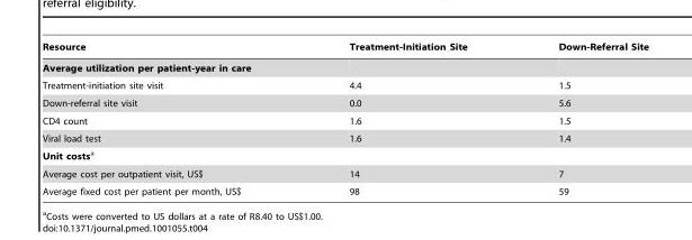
<table><thead><tr><td>Resource</td><td>Treatment-Initiation Site</td><td>Down-Referral Site</td></tr></thead><tbody><tr><td colspan="3">Average utilization per patient-year in care</td></tr><tr><td>Treatment-initiation site visit</td><td>4.4</td><td>1.5</td></tr><tr><td>Down-referral site visit</td><td>0.0</td><td>5.6</td></tr><tr><td>CD4 count</td><td>1.6</td><td>1.5</td></tr><tr><td>Viral load test</td><td>1.6</td><td>1.4</td></tr><tr><td colspan="3">Unit costsa</td></tr><tr><td>Average cost per outpatient visit, US$</td><td>14</td><td>7</td></tr><tr><td>Average fixed cost per patient per month, US$</td><td>98</td><td>59</td></tr></tbody></table>